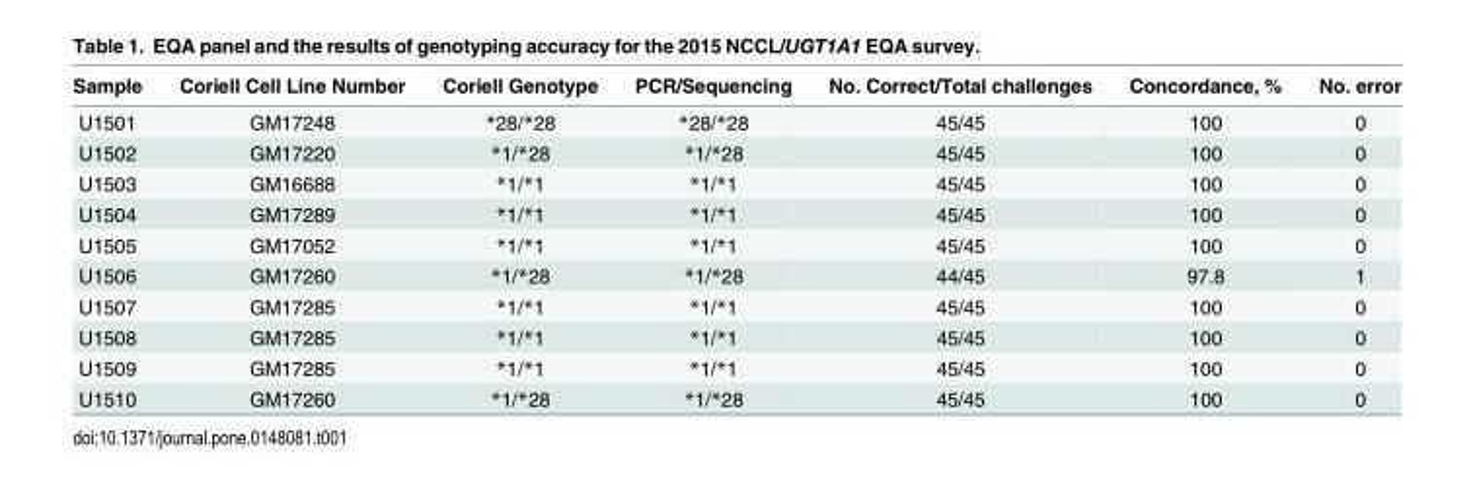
<table><thead><tr><td>Sample</td><td>Coriell Cell Line Number</td><td>Coriell Genotype</td><td>PCR/Sequencing</td><td>No. Correct/Total challenges</td><td>Concordance, %</td><td>No. error</td></tr></thead><tbody><tr><td>U1501</td><td>GM17248</td><td>*28/*28</td><td>*28/*28</td><td>45/45</td><td>100</td><td>0</td></tr><tr><td>U1502</td><td>GM17220</td><td>*1/*28</td><td>*1/*28</td><td>45/45</td><td>100</td><td>0</td></tr><tr><td>U1503</td><td>GM16688</td><td>*1/*1</td><td>*1/*1</td><td>45/45</td><td>100</td><td>0</td></tr><tr><td>U1504</td><td>GM17289</td><td>*1/*1</td><td>*1/*1</td><td>45/45</td><td>100</td><td>0</td></tr><tr><td>U1505</td><td>GM17052</td><td>*1/*1</td><td>*1/*1</td><td>45/45</td><td>100</td><td>0</td></tr><tr><td>U1506</td><td>GM17260</td><td>*1/*28</td><td>*1/*28</td><td>44/45</td><td>97.8</td><td>1</td></tr><tr><td>U1507</td><td>GM17285</td><td>*1/*1</td><td>*1/*1</td><td>45/45</td><td>100</td><td>0</td></tr><tr><td>U1508</td><td>GM17285</td><td>*1/*1</td><td>*1/*1</td><td>45/45</td><td>100</td><td>0</td></tr><tr><td>U1509</td><td>GM17285</td><td>*1/*1</td><td>*1/*1</td><td>45/45</td><td>100</td><td>0</td></tr><tr><td>U1510</td><td>GM17260</td><td>*1/*28</td><td>*1/*28</td><td>45/45</td><td>100</td><td>0</td></tr></tbody></table>